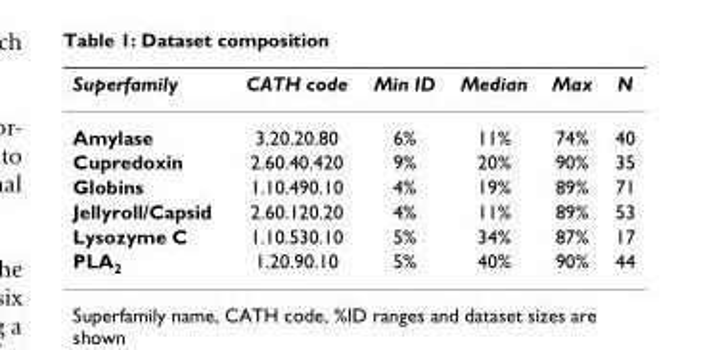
<table><thead><tr><td>Superfamily</td><td>CATH code</td><td>Min ID</td><td>Median</td><td>Max</td><td>N</td></tr></thead><tbody><tr><td>Amylase</td><td>3.20.20.80</td><td>6%</td><td>11%</td><td>74%</td><td>40</td></tr><tr><td>Cupredoxin</td><td>2.60.40.420</td><td>9%</td><td>20%</td><td>90%</td><td>35</td></tr><tr><td>Globins</td><td>1.10.490.10</td><td>4%</td><td>19%</td><td>89%</td><td>71</td></tr><tr><td>Jellyroll/Capsid</td><td>2.60.120.20</td><td>4%</td><td>11%</td><td>89%</td><td>53</td></tr><tr><td>Lysozyme C</td><td>1.10.530.10</td><td>5%</td><td>34%</td><td>87%</td><td>17</td></tr><tr><td>PLA<sub>2</sub></td><td>1.20.90.10</td><td>5%</td><td>40%</td><td>90%</td><td>44</td></tr></tbody></table>